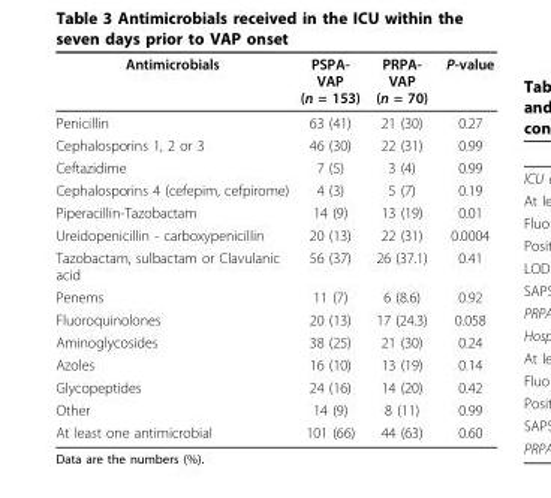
<table><thead><tr><td>Antimicrobials</td><td>PSPA- VAP (n = 153)</td><td>PRPA- VAP (n = 70)</td><td>P-value</td></tr></thead><tbody><tr><td>Penicillin</td><td>63 (41)</td><td>21 (30)</td><td>0.27</td></tr><tr><td>Cephalosporins 1, 2 or 3</td><td>46 (30)</td><td>22 (31)</td><td>0.99</td></tr><tr><td>Ceftazidime</td><td>7 (5)</td><td>3 (4)</td><td>0.99</td></tr><tr><td>Cephalosporins 4 (cefepim, cefpirome)</td><td>4 (3)</td><td>5 (7)</td><td>0.19</td></tr><tr><td>Piperacillin-Tazobactam</td><td>14 (9)</td><td>13 (19)</td><td>0.01</td></tr><tr><td>Ureidopenicillin - carboxypenicillin</td><td>20 (13)</td><td>22 (31)</td><td>0.0004</td></tr><tr><td>Tazobactam, sulbactam or Clavulanic acid</td><td>56 (37)</td><td>26 (37.1)</td><td>0.41</td></tr><tr><td>Penems</td><td>11 (7)</td><td>6 (8.6)</td><td>0.92</td></tr><tr><td>Fluoroquinolones</td><td>20 (13)</td><td>17 (24.3)</td><td>0.058</td></tr><tr><td>Aminoglycosides</td><td>38 (25)</td><td>21 (30)</td><td>0.24</td></tr><tr><td>Azoles</td><td>16 (10)</td><td>13 (19)</td><td>0.14</td></tr><tr><td>Glycopeptides</td><td>24 (16)</td><td>14 (20)</td><td>0.42</td></tr><tr><td>Other</td><td>14 (9)</td><td>8 (11)</td><td>0.99</td></tr><tr><td>At least one antimicrobial</td><td>101 (66)</td><td>44 (63)</td><td>0.60</td></tr></tbody></table>